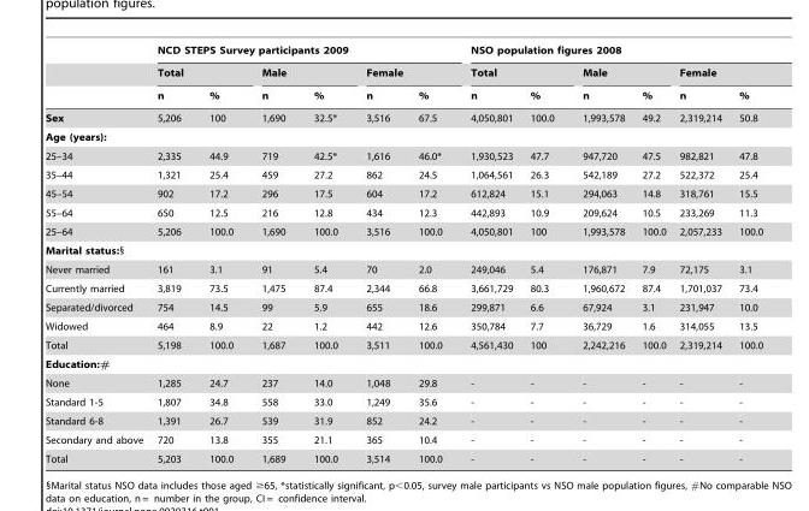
<table><thead><tr><td rowspan="3"></td><td colspan="6">NCD STEPS Survey participants 2009</td><td colspan="6">NSO population figures 2008</td></tr><tr><td colspan="2">Total</td><td colspan="2">Male</td><td colspan="2">Female</td><td colspan="2">Total</td><td colspan="2">Male</td><td colspan="2">Female</td></tr><tr><td>n</td><td>%</td><td>n</td><td>%</td><td>n</td><td>%</td><td>n</td><td>%</td><td>n</td><td>%</td><td>n</td><td>%</td></tr></thead><tbody><tr><td>Sex</td><td>5,206</td><td>100</td><td>1,690</td><td>32.5*</td><td>3,516</td><td>67.5</td><td>4,050,801</td><td>100.0</td><td>1,993,578</td><td>49.2</td><td>2,319,214</td><td>50.8</td></tr><tr><td colspan="13">Age (years):</td></tr><tr><td>25–34</td><td>2,335</td><td>44.9</td><td>719</td><td>42.5*</td><td>1,616</td><td>46.0*</td><td>1,930,523</td><td>47.7</td><td>947,720</td><td>47.5</td><td>982,821</td><td>47.8</td></tr><tr><td>35–44</td><td>1,321</td><td>25.4</td><td>459</td><td>27.2</td><td>862</td><td>24.5</td><td>1,064,561</td><td>26.3</td><td>542,189</td><td>27.2</td><td>522,372</td><td>25.4</td></tr><tr><td>45–54</td><td>902</td><td>17.2</td><td>296</td><td>17.5</td><td>604</td><td>17.2</td><td>612,824</td><td>15.1</td><td>294,063</td><td>14.8</td><td>318,761</td><td>15.5</td></tr><tr><td>55–64</td><td>650</td><td>12.5</td><td>216</td><td>12.8</td><td>434</td><td>12.3</td><td>442,893</td><td>10.9</td><td>209,624</td><td>10.5</td><td>233,269</td><td>11.3</td></tr><tr><td>25–64</td><td>5,206</td><td>100.0</td><td>1,690</td><td>100.0</td><td>3,516</td><td>100.0</td><td>4,050,801</td><td>100</td><td>1,993,578</td><td>100.0</td><td>2,057,233</td><td>100.0</td></tr><tr><td colspan="13">Marital status:§</td></tr><tr><td>Never married</td><td>161</td><td>3.1</td><td>91</td><td>5.4</td><td>70</td><td>2.0</td><td>249,046</td><td>5.4</td><td>176,871</td><td>7.9</td><td>72,175</td><td>3.1</td></tr><tr><td>Currently married</td><td>3,819</td><td>73.5</td><td>1,475</td><td>87.4</td><td>2,344</td><td>66.8</td><td>3,661,729</td><td>80.3</td><td>1,960,672</td><td>87.4</td><td>1,701,037</td><td>73.4</td></tr><tr><td>Separated/divorced</td><td>754</td><td>14.5</td><td>99</td><td>5.9</td><td>655</td><td>18.6</td><td>299,871</td><td>6.6</td><td>67,924</td><td>3.1</td><td>231,947</td><td>10.0</td></tr><tr><td>Widowed</td><td>464</td><td>8.9</td><td>22</td><td>1.2</td><td>442</td><td>12.6</td><td>350,784</td><td>7.7</td><td>36,729</td><td>1.6</td><td>314,055</td><td>13.5</td></tr><tr><td>Total</td><td>5,198</td><td>100.0</td><td>1,687</td><td>100.0</td><td>3,511</td><td>100.0</td><td>4,561,430</td><td>100</td><td>2,242,216</td><td>100.0</td><td>2,319,214</td><td>100.0</td></tr><tr><td colspan="13">Education:#</td></tr><tr><td>None</td><td>1,285</td><td>24.7</td><td>237</td><td>14.0</td><td>1,048</td><td>29.8</td><td>-</td><td>-</td><td>-</td><td>-</td><td>-</td><td>-</td></tr><tr><td>Standard 1-5</td><td>1,807</td><td>34.8</td><td>558</td><td>33.0</td><td>1,249</td><td>35.6</td><td>-</td><td>-</td><td>-</td><td>-</td><td>-</td><td>-</td></tr><tr><td>Standard 6-8</td><td>1,391</td><td>26.7</td><td>539</td><td>31.9</td><td>852</td><td>24.2</td><td>-</td><td>-</td><td>-</td><td>-</td><td>-</td><td>-</td></tr><tr><td>Secondary and above</td><td>720</td><td>13.8</td><td>355</td><td>21.1</td><td>365</td><td>10.4</td><td>-</td><td>-</td><td>-</td><td>-</td><td>-</td><td>-</td></tr><tr><td>Total</td><td>5,203</td><td>100.0</td><td>1,689</td><td>100.0</td><td>3,514</td><td>100.0</td><td>-</td><td>-</td><td>-</td><td>-</td><td>-</td><td>-</td></tr></tbody></table>